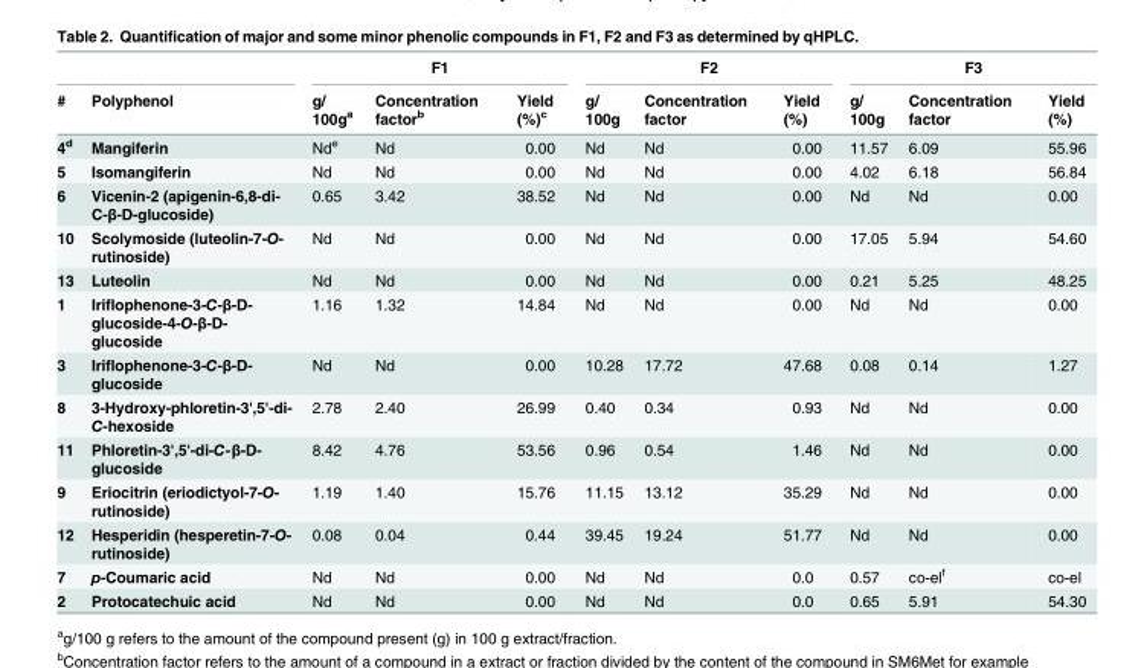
<table><thead><tr><td rowspan="2">#</td><td rowspan="2">Polyphenol</td><td colspan="3">F1</td><td colspan="3">F2</td><td colspan="3">F3</td></tr><tr><td>g/ 100g<sup>a</sup></td><td>Concentration factor<sup>b</sup></td><td>Yield (%)<sup>c</sup></td><td>g/ 100g</td><td>Concentration factor</td><td>Yield (%)</td><td>g/ 100g</td><td>Concentration factor</td><td>Yield (%)</td></tr></thead><tbody><tr><td>4<sup>d</sup></td><td>Mangiferin</td><td>Nd<sup>e</sup></td><td>Nd</td><td>0.00</td><td>Nd</td><td>Nd</td><td>0.00</td><td>11.57</td><td>6.09</td><td>55.96</td></tr><tr><td>5</td><td>Isomangiferin</td><td>Nd</td><td>Nd</td><td>0.00</td><td>Nd</td><td>Nd</td><td>0.00</td><td>4.02</td><td>6.18</td><td>56.84</td></tr><tr><td>6</td><td>Vicenin-2 (apigenin-6,8-di- C-β-D-glucoside)</td><td>0.65</td><td>3.42</td><td>38.52</td><td>Nd</td><td>Nd</td><td>0.00</td><td>Nd</td><td>Nd</td><td>0.00</td></tr><tr><td>10</td><td>Scolymoside (luteolin-7-O- rutinoside)</td><td>Nd</td><td>Nd</td><td>0.00</td><td>Nd</td><td>Nd</td><td>0.00</td><td>17.05</td><td>5.94</td><td>54.60</td></tr><tr><td>13</td><td>Luteolin</td><td>Nd</td><td>Nd</td><td>0.00</td><td>Nd</td><td>Nd</td><td>0.00</td><td>0.21</td><td>5.25</td><td>48.25</td></tr><tr><td>1</td><td>Iriflophenone-3-C-β-D- glucoside-4-O-β-D- glucoside</td><td>1.16</td><td>1.32</td><td>14.84</td><td>Nd</td><td>Nd</td><td>0.00</td><td>Nd</td><td>Nd</td><td>0.00</td></tr><tr><td>3</td><td>Iriflophenone-3-C-β-D- glucoside</td><td>Nd</td><td>Nd</td><td>0.00</td><td>10.28</td><td>17.72</td><td>47.68</td><td>0.08</td><td>0.14</td><td>1.27</td></tr><tr><td>8</td><td>3-Hydroxy-phloretin-3&#x27;,5&#x27;-di- C-hexoside</td><td>2.78</td><td>2.40</td><td>26.99</td><td>0.40</td><td>0.34</td><td>0.93</td><td>Nd</td><td>Nd</td><td>0.00</td></tr><tr><td>11</td><td>Phloretin-3&#x27;,5&#x27;-di-C-β-D- glucoside</td><td>8.42</td><td>4.76</td><td>53.56</td><td>0.96</td><td>0.54</td><td>1.46</td><td>Nd</td><td>Nd</td><td>0.00</td></tr><tr><td>9</td><td>Eriocitrin (eriodictyol-7-O- rutinoside)</td><td>1.19</td><td>1.40</td><td>15.76</td><td>11.15</td><td>13.12</td><td>35.29</td><td>Nd</td><td>Nd</td><td>0.00</td></tr><tr><td>12</td><td>Hesperidin (hesperetin-7-O- rutinoside)</td><td>0.08</td><td>0.04</td><td>0.44</td><td>39.45</td><td>19.24</td><td>51.77</td><td>Nd</td><td>Nd</td><td>0.00</td></tr><tr><td>7</td><td>p-Coumaric acid</td><td>Nd</td><td>Nd</td><td>0.00</td><td>Nd</td><td>Nd</td><td>0.0</td><td>0.57</td><td>co-el<sup>f</sup></td><td>co-el</td></tr><tr><td>2</td><td>Protocatechuic acid</td><td>Nd</td><td>Nd</td><td>0.00</td><td>Nd</td><td>Nd</td><td>0.0</td><td>0.65</td><td>5.91</td><td>54.30</td></tr></tbody></table>